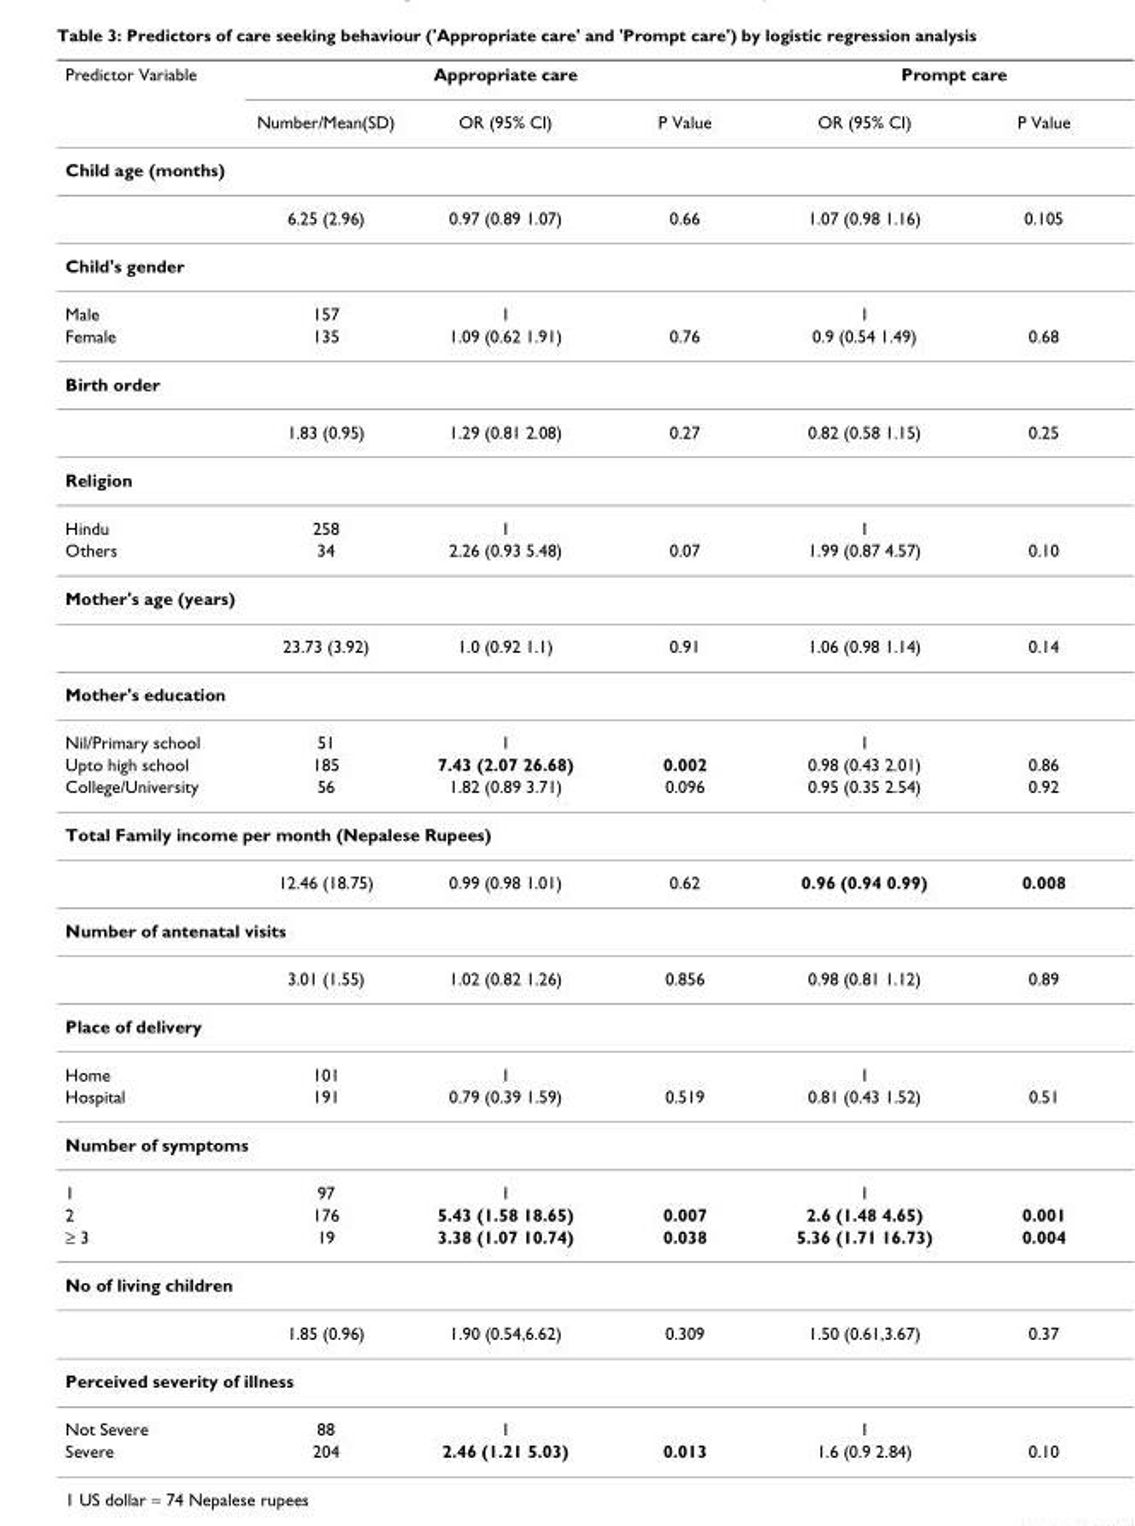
<table><thead><tr><td rowspan="2">Predictor Variable</td><td colspan="3">Appropriate care</td><td colspan="2">Prompt care</td></tr><tr><td>Number/Mean(SD)</td><td>OR (95% CI)</td><td>P Value</td><td>OR (95% CI)</td><td>P Value</td></tr></thead><tbody><tr><td colspan="6">Child age (months)</td></tr><tr><td></td><td>6.25 (2.96)</td><td>0.97 (0.89 1.07)</td><td>0.66</td><td>1.07 (0.98 1.16)</td><td>0.105</td></tr><tr><td colspan="6">Child&#x27;s gender</td></tr><tr><td>Male</td><td>157</td><td>1</td><td></td><td>1</td><td></td></tr><tr><td>Female</td><td>135</td><td>1.09 (0.62 1.91)</td><td>0.76</td><td>0.9 (0.54 1.49)</td><td>0.68</td></tr><tr><td colspan="6">Birth order</td></tr><tr><td></td><td>1.83 (0.95)</td><td>1.29 (0.81 2.08)</td><td>0.27</td><td>0.82 (0.58 1.15)</td><td>0.25</td></tr><tr><td colspan="6">Religion</td></tr><tr><td>Hindu</td><td>258</td><td>1</td><td></td><td>1</td><td></td></tr><tr><td>Others</td><td>34</td><td>2.26 (0.93 5.48)</td><td>0.07</td><td>1.99 (0.87 4.57)</td><td>0.10</td></tr><tr><td colspan="6">Mother&#x27;s age (years)</td></tr><tr><td></td><td>23.73 (3.92)</td><td>1.0 (0.92 1.1)</td><td>0.91</td><td>1.06 (0.98 1.14)</td><td>0.14</td></tr><tr><td colspan="6">Mother&#x27;s education</td></tr><tr><td>Nil/Primary school</td><td>51</td><td>1</td><td></td><td>1</td><td></td></tr><tr><td>Upto high school</td><td>185</td><td>7.43 (2.07 26.68)</td><td>0.002</td><td>0.98 (0.43 2.01)</td><td>0.86</td></tr><tr><td>College/University</td><td>56</td><td>1.82 (0.89 3.71)</td><td>0.096</td><td>0.95 (0.35 2.54)</td><td>0.92</td></tr><tr><td colspan="6">Total Family income per month (Nepalese Rupees)</td></tr><tr><td></td><td>12.46 (18.75)</td><td>0.99 (0.98 1.01)</td><td>0.62</td><td>0.96 (0.94 0.99)</td><td>0.008</td></tr><tr><td colspan="6">Number of antenatal visits</td></tr><tr><td></td><td>3.01 (1.55)</td><td>1.02 (0.82 1.26)</td><td>0.856</td><td>0.98 (0.81 1.12)</td><td>0.89</td></tr><tr><td colspan="6">Place of delivery</td></tr><tr><td>Home</td><td>101</td><td>1</td><td></td><td>1</td><td></td></tr><tr><td>Hospital</td><td>191</td><td>0.79 (0.39 1.59)</td><td>0.519</td><td>0.81 (0.43 1.52)</td><td>0.51</td></tr><tr><td colspan="6">Number of symptoms</td></tr><tr><td>1</td><td>97</td><td>1</td><td></td><td>1</td><td></td></tr><tr><td>2</td><td>176</td><td>5.43 (1.58 18.65)</td><td>0.007</td><td>2.6 (1.48 4.65)</td><td>0.001</td></tr><tr><td>≥ 3</td><td>19</td><td>3.38 (1.07 10.74)</td><td>0.038</td><td>5.36 (1.71 16.73)</td><td>0.004</td></tr><tr><td colspan="6">No of living children</td></tr><tr><td></td><td>1.85 (0.96)</td><td>1.90 (0.54,6.62)</td><td>0.309</td><td>1.50 (0.61,3.67)</td><td>0.37</td></tr><tr><td colspan="6">Perceived severity of illness</td></tr><tr><td>Not Severe</td><td>88</td><td>1</td><td></td><td>1</td><td></td></tr><tr><td>Severe</td><td>204</td><td>2.46 (1.21 5.03)</td><td>0.013</td><td>1.6 (0.9 2.84)</td><td>0.10</td></tr></tbody></table>